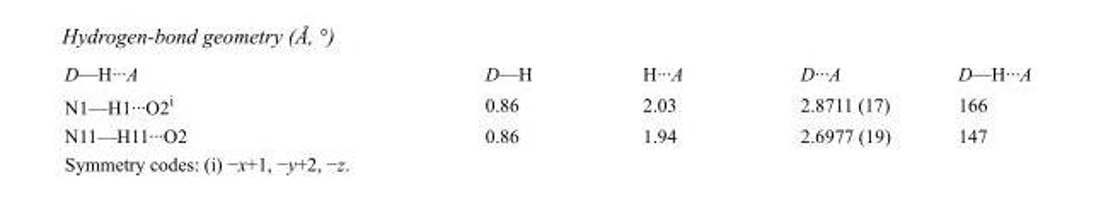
<table><tbody><tr><td>D—H···A</td><td>D—H</td><td>H···A</td><td>D···A</td><td>D—H···A</td></tr><tr><td>N1—H1···O2<sup>i</sup></td><td>0.86</td><td>2.03</td><td>2.8711 (17)</td><td>166</td></tr><tr><td>N11—H11···O2</td><td>0.86</td><td>1.94</td><td>2.6977 (19)</td><td>147</td></tr></tbody></table>